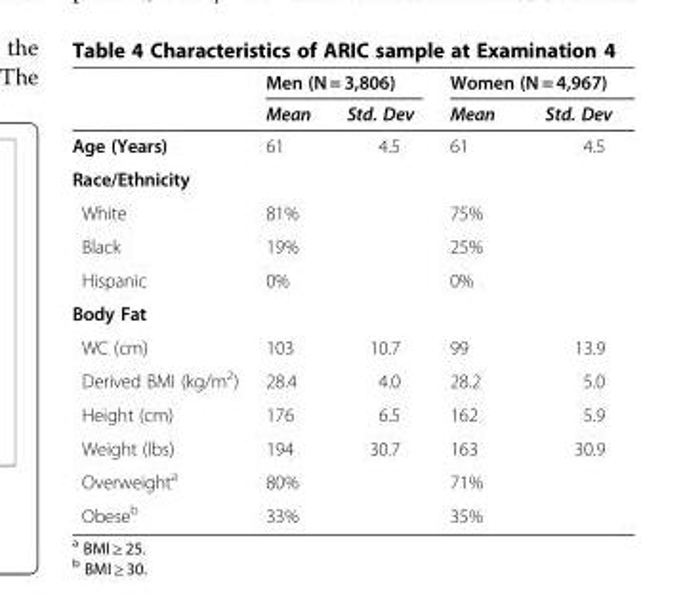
<table><thead><tr><td rowspan="2"></td><td colspan="2">Men (N = 3,806)</td><td colspan="2">Women (N = 4,967)</td></tr><tr><td>Mean</td><td>Std. Dev</td><td>Mean</td><td>Std. Dev</td></tr></thead><tbody><tr><td>Age (Years)</td><td>61</td><td>4.5</td><td>61</td><td>4.5</td></tr><tr><td colspan="5">Race/Ethnicity</td></tr><tr><td>White</td><td>81%</td><td></td><td>75%</td><td></td></tr><tr><td>Black</td><td>19%</td><td></td><td>25%</td><td></td></tr><tr><td>Hispanic</td><td>0%</td><td></td><td>0%</td><td></td></tr><tr><td colspan="5">Body Fat</td></tr><tr><td>WC (cm)</td><td>103</td><td>10.7</td><td>99</td><td>13.9</td></tr><tr><td>Derived BMI (kg/m<sup>2</sup>)</td><td>28.4</td><td>4.0</td><td>28.2</td><td>5.0</td></tr><tr><td>Height (cm)</td><td>176</td><td>6.5</td><td>162</td><td>5.9</td></tr><tr><td>Weight (lbs)</td><td>194</td><td>30.7</td><td>163</td><td>30.9</td></tr><tr><td>Overweight<sup>a</sup></td><td>80%</td><td></td><td>71%</td><td></td></tr><tr><td>Obese<sup>b</sup></td><td>33%</td><td></td><td>35%</td><td></td></tr></tbody></table>